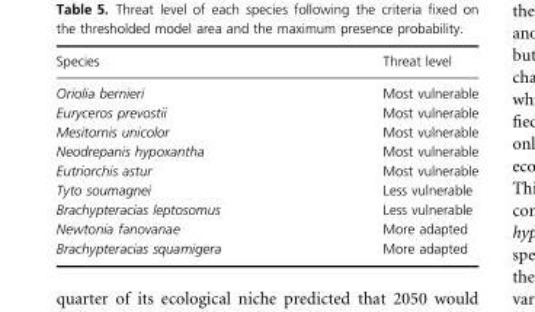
<table><thead><tr><td>Species</td><td>Threat level</td></tr></thead><tbody><tr><td>Oriolia bernieri</td><td>Most vulnerable</td></tr><tr><td>Euryceros prevostii</td><td>Most vulnerable</td></tr><tr><td>Mesitornis unicolor</td><td>Most vulnerable</td></tr><tr><td>Neodrepanis hypoxantha</td><td>Most vulnerable</td></tr><tr><td>Eutriorchis astur</td><td>Most vulnerable</td></tr><tr><td>Tyto soumagnei</td><td>Less vulnerable</td></tr><tr><td>Brachypteracias leptosomus</td><td>Less vulnerable</td></tr><tr><td>Newtonia fanovanae</td><td>More adapted</td></tr><tr><td>Brachypteracias squamigera</td><td>More adapted</td></tr></tbody></table>